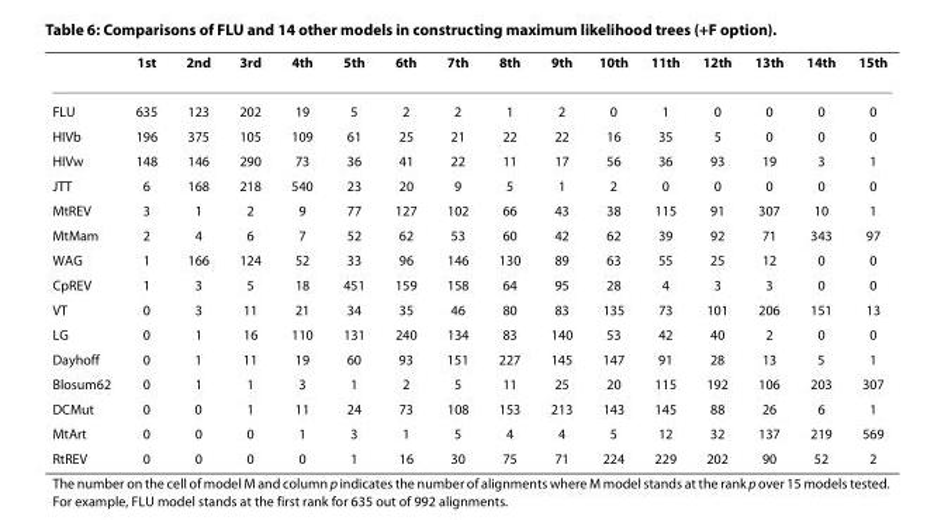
<table><thead><tr><td></td><td>1<sup>st</sup></td><td>2<sup>nd</sup></td><td>3<sup>rd</sup></td><td>4<sup>th</sup></td><td>5<sup>th</sup></td><td>6<sup>th</sup></td><td>7<sup>th</sup></td><td>8<sup>th</sup></td><td>9<sup>th</sup></td><td>10<sup>th</sup></td><td>11<sup>th</sup></td><td>12<sup>th</sup></td><td>13<sup>th</sup></td><td>14<sup>th</sup></td><td>15<sup>th</sup></td></tr></thead><tbody><tr><td>FLU</td><td>635</td><td>123</td><td>202</td><td>19</td><td>5</td><td>2</td><td>2</td><td>1</td><td>2</td><td>0</td><td>1</td><td>0</td><td>0</td><td>0</td><td>0</td></tr><tr><td>HIVb</td><td>196</td><td>375</td><td>105</td><td>109</td><td>61</td><td>25</td><td>21</td><td>22</td><td>22</td><td>16</td><td>35</td><td>5</td><td>0</td><td>0</td><td>0</td></tr><tr><td>HIVw</td><td>148</td><td>146</td><td>290</td><td>73</td><td>36</td><td>41</td><td>22</td><td>11</td><td>17</td><td>56</td><td>36</td><td>93</td><td>19</td><td>3</td><td>1</td></tr><tr><td>JTT</td><td>6</td><td>168</td><td>218</td><td>540</td><td>23</td><td>20</td><td>9</td><td>5</td><td>1</td><td>2</td><td>0</td><td>0</td><td>0</td><td>0</td><td>0</td></tr><tr><td>MtREV</td><td>3</td><td>1</td><td>2</td><td>9</td><td>77</td><td>127</td><td>102</td><td>66</td><td>43</td><td>38</td><td>115</td><td>91</td><td>307</td><td>10</td><td>1</td></tr><tr><td>MtMam</td><td>2</td><td>4</td><td>6</td><td>7</td><td>52</td><td>62</td><td>53</td><td>60</td><td>42</td><td>62</td><td>39</td><td>92</td><td>71</td><td>343</td><td>97</td></tr><tr><td>WAG</td><td>1</td><td>166</td><td>124</td><td>52</td><td>33</td><td>96</td><td>146</td><td>130</td><td>89</td><td>63</td><td>55</td><td>25</td><td>12</td><td>0</td><td>0</td></tr><tr><td>CpREV</td><td>1</td><td>3</td><td>5</td><td>18</td><td>451</td><td>159</td><td>158</td><td>64</td><td>95</td><td>28</td><td>4</td><td>3</td><td>3</td><td>0</td><td>0</td></tr><tr><td>VT</td><td>0</td><td>3</td><td>11</td><td>21</td><td>34</td><td>35</td><td>46</td><td>80</td><td>83</td><td>135</td><td>73</td><td>101</td><td>206</td><td>151</td><td>13</td></tr><tr><td>LG</td><td>0</td><td>1</td><td>16</td><td>110</td><td>131</td><td>240</td><td>134</td><td>83</td><td>140</td><td>53</td><td>42</td><td>40</td><td>2</td><td>0</td><td>0</td></tr><tr><td>Dayhoff</td><td>0</td><td>1</td><td>11</td><td>19</td><td>60</td><td>93</td><td>151</td><td>227</td><td>145</td><td>147</td><td>91</td><td>28</td><td>13</td><td>5</td><td>1</td></tr><tr><td>Blosum62</td><td>0</td><td>1</td><td>1</td><td>3</td><td>1</td><td>2</td><td>5</td><td>11</td><td>25</td><td>20</td><td>115</td><td>192</td><td>106</td><td>203</td><td>307</td></tr><tr><td>DCMut</td><td>0</td><td>0</td><td>1</td><td>11</td><td>24</td><td>73</td><td>108</td><td>153</td><td>213</td><td>143</td><td>145</td><td>88</td><td>26</td><td>6</td><td>1</td></tr><tr><td>MtArt</td><td>0</td><td>0</td><td>0</td><td>1</td><td>3</td><td>1</td><td>5</td><td>4</td><td>4</td><td>5</td><td>12</td><td>32</td><td>137</td><td>219</td><td>569</td></tr><tr><td>RtREV</td><td>0</td><td>0</td><td>0</td><td>0</td><td>1</td><td>16</td><td>30</td><td>75</td><td>71</td><td>224</td><td>229</td><td>202</td><td>90</td><td>52</td><td>2</td></tr></tbody></table>